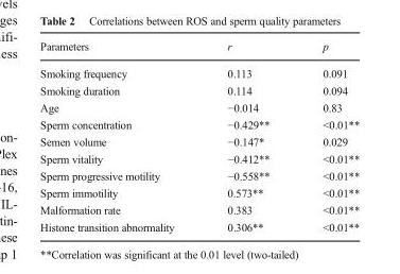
<table><thead><tr><td>Parameters</td><td>r</td><td>p</td></tr></thead><tbody><tr><td>Smoking frequency</td><td>0.113</td><td>0.091</td></tr><tr><td>Smoking duration</td><td>0.114</td><td>0.094</td></tr><tr><td>Age</td><td>−0.014</td><td>0.83</td></tr><tr><td>Sperm concentration</td><td>−0.429**</td><td>&lt;0.01**</td></tr><tr><td>Semen volume</td><td>−0.147*</td><td>0.029</td></tr><tr><td>Sperm vitality</td><td>−0.412**</td><td>&lt;0.01**</td></tr><tr><td>Sperm progressive motility</td><td>−0.558**</td><td>&lt;0.01**</td></tr><tr><td>Sperm immotility</td><td>0.573**</td><td>&lt;0.01**</td></tr><tr><td>Malformation rate</td><td>0.383</td><td>&lt;0.01**</td></tr><tr><td>Histone transition abnormality</td><td>0.306**</td><td>&lt;0.01**</td></tr></tbody></table>